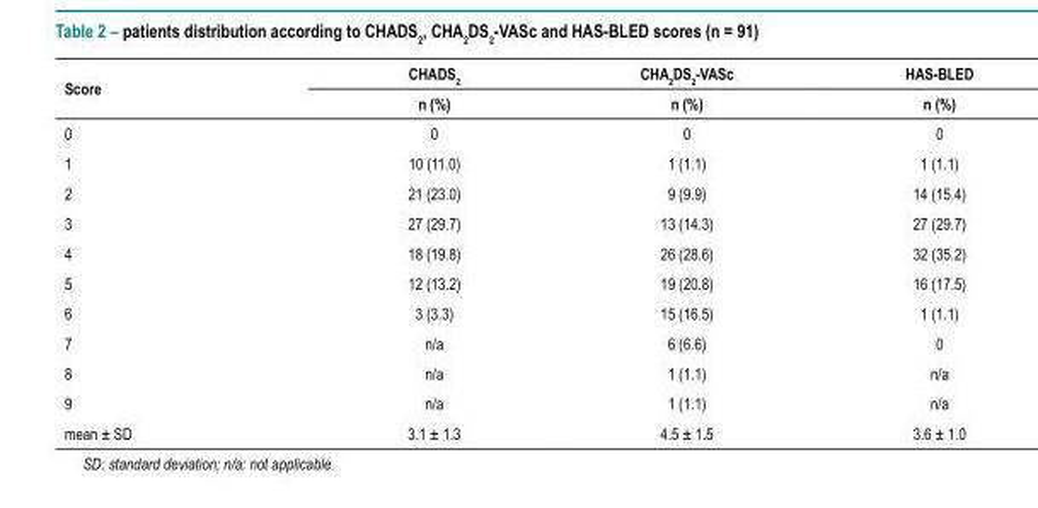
<table><thead><tr><td rowspan="2">Score</td><td rowspan="2">CHADS<sub>2</sub> n (%)</td><td rowspan="2">CHA<sub>2</sub>DS<sub>2</sub>-VASc n (%)</td><td rowspan="2">HAS-BLED n (%)</td></tr><tr></tr></thead><tbody><tr><td>0</td><td>0</td><td>0</td><td>0</td></tr><tr><td>1</td><td>10 (11.0)</td><td>1 (1.1)</td><td>1 (1.1)</td></tr><tr><td>2</td><td>21 (23.0)</td><td>9 (9.9)</td><td>14 (15.4)</td></tr><tr><td>3</td><td>27 (29.7)</td><td>13 (14.3)</td><td>27 (29.7)</td></tr><tr><td>4</td><td>18 (19.8)</td><td>26 (28.6)</td><td>32 (35.2)</td></tr><tr><td>5</td><td>12 (13.2)</td><td>19 (20.8)</td><td>16 (17.5)</td></tr><tr><td>6</td><td>3 (3.3)</td><td>15 (16.5)</td><td>1 (1.1)</td></tr><tr><td>7</td><td>n/a</td><td>6 (6.6)</td><td>0</td></tr><tr><td>8</td><td>n/a</td><td>1 (1.1)</td><td>n/a</td></tr><tr><td>9</td><td>n/a</td><td>1 (1.1)</td><td>n/a</td></tr><tr><td>mean ± SD</td><td>3.1 ± 1.3</td><td>4.5 ± 1.5</td><td>3.6 ± 1.0</td></tr></tbody></table>